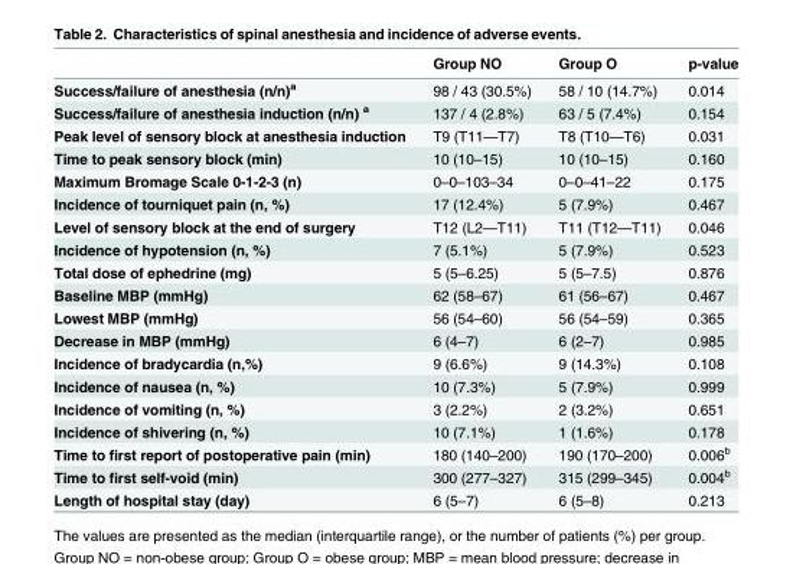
<table><thead><tr><td></td><td>Group NO</td><td>Group O</td><td>p-value</td></tr></thead><tbody><tr><td>Success/failure of anesthesia (n/n)<sup>a</sup></td><td>98 / 43 (30.5%)</td><td>58 / 10 (14.7%)</td><td>0.014</td></tr><tr><td>Success/failure of anesthesia induction (n/n) <sup>a</sup></td><td>137 / 4 (2.8%)</td><td>63 / 5 (7.4%)</td><td>0.154</td></tr><tr><td>Peak level of sensory block at anesthesia induction</td><td>T9 (T11—T7)</td><td>T8 (T10—T6)</td><td>0.031</td></tr><tr><td>Time to peak sensory block (min)</td><td>10 (10–15)</td><td>10 (10–15)</td><td>0.160</td></tr><tr><td>Maximum Bromage Scale 0-1-2-3 (n)</td><td>0–0–103–34</td><td>0–0–41–22</td><td>0.175</td></tr><tr><td>Incidence of tourniquet pain (n, %)</td><td>17 (12.4%)</td><td>5 (7.9%)</td><td>0.467</td></tr><tr><td>Level of sensory block at the end of surgery</td><td>T12 (L2—T11)</td><td>T11 (T12—T11)</td><td>0.046</td></tr><tr><td>Incidence of hypotension (n, %)</td><td>7 (5.1%)</td><td>5 (7.9%)</td><td>0.523</td></tr><tr><td>Total dose of ephedrine (mg)</td><td>5 (5–6.25)</td><td>5 (5–7.5)</td><td>0.876</td></tr><tr><td>Baseline MBP (mmHg)</td><td>62 (58–67)</td><td>61 (56–67)</td><td>0.467</td></tr><tr><td>Lowest MBP (mmHg)</td><td>56 (54–60)</td><td>56 (54–59)</td><td>0.365</td></tr><tr><td>Decrease in MBP (mmHg)</td><td>6 (4–7)</td><td>6 (2–7)</td><td>0.985</td></tr><tr><td>Incidence of bradycardia (n,%)</td><td>9 (6.6%)</td><td>9 (14.3%)</td><td>0.108</td></tr><tr><td>Incidence of nausea (n, %)</td><td>10 (7.3%)</td><td>5 (7.9%)</td><td>0.999</td></tr><tr><td>Incidence of vomiting (n, %)</td><td>3 (2.2%)</td><td>2 (3.2%)</td><td>0.651</td></tr><tr><td>Incidence of shivering (n, %)</td><td>10 (7.1%)</td><td>1 (1.6%)</td><td>0.178</td></tr><tr><td>Time to first report of postoperative pain (min)</td><td>180 (140–200)</td><td>190 (170–200)</td><td>0.006<sup>b</sup></td></tr><tr><td>Time to first self-void (min)</td><td>300 (277–327)</td><td>315 (299–345)</td><td>0.004<sup>b</sup></td></tr><tr><td>Length of hospital stay (day)</td><td>6 (5–7)</td><td>6 (5–8)</td><td>0.213</td></tr></tbody></table>